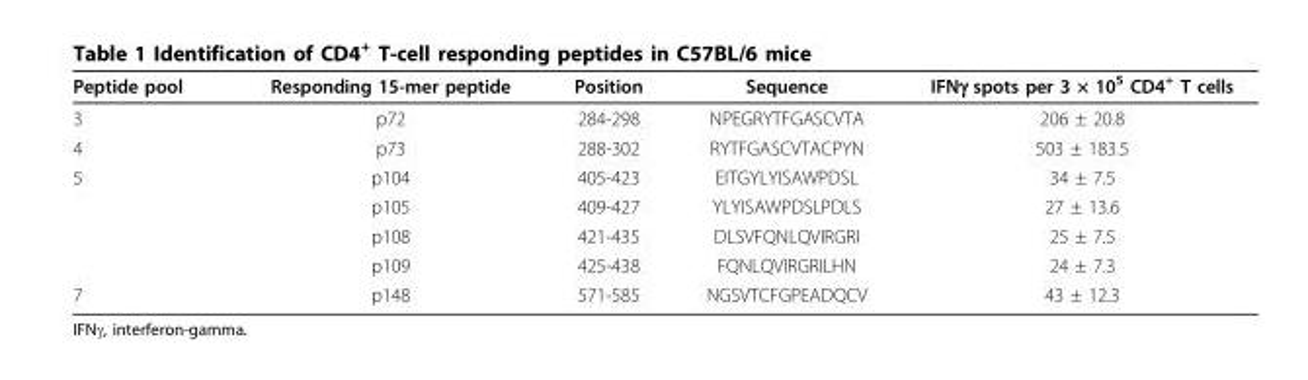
<table><thead><tr><td>Peptide pool</td><td>Responding 15-mer peptide</td><td>Position</td><td>Sequence</td><td>IFNγ spots per 3 × 10<sup>5</sup> CD4<sup>+</sup> T cells</td></tr></thead><tbody><tr><td>3</td><td>p72</td><td>284-298</td><td>NPEGRYTFGASCVTA</td><td>206 ± 20.8</td></tr><tr><td>4</td><td>p73</td><td>288-302</td><td>RYTFGASCVTACPYN</td><td>503 ± 183.5</td></tr><tr><td rowspan="4">5</td><td>p104</td><td>405-423</td><td>EITGYLYISAWPDSL</td><td>34 ± 7.5</td></tr><tr><td>p105</td><td>409-427</td><td>YLYISAWPDSLPDLS</td><td>27 ± 13.6</td></tr><tr><td>p108</td><td>421-435</td><td>DLSVFQNLQVIRGRI</td><td>25 ± 7.5</td></tr><tr><td>p109</td><td>425-438</td><td>FQNLQVIRGRILHN</td><td>24 ± 7.3</td></tr><tr><td>7</td><td>p148</td><td>571-585</td><td>NGSVTCFGPEADQCV</td><td>43 ± 12.3</td></tr></tbody></table>